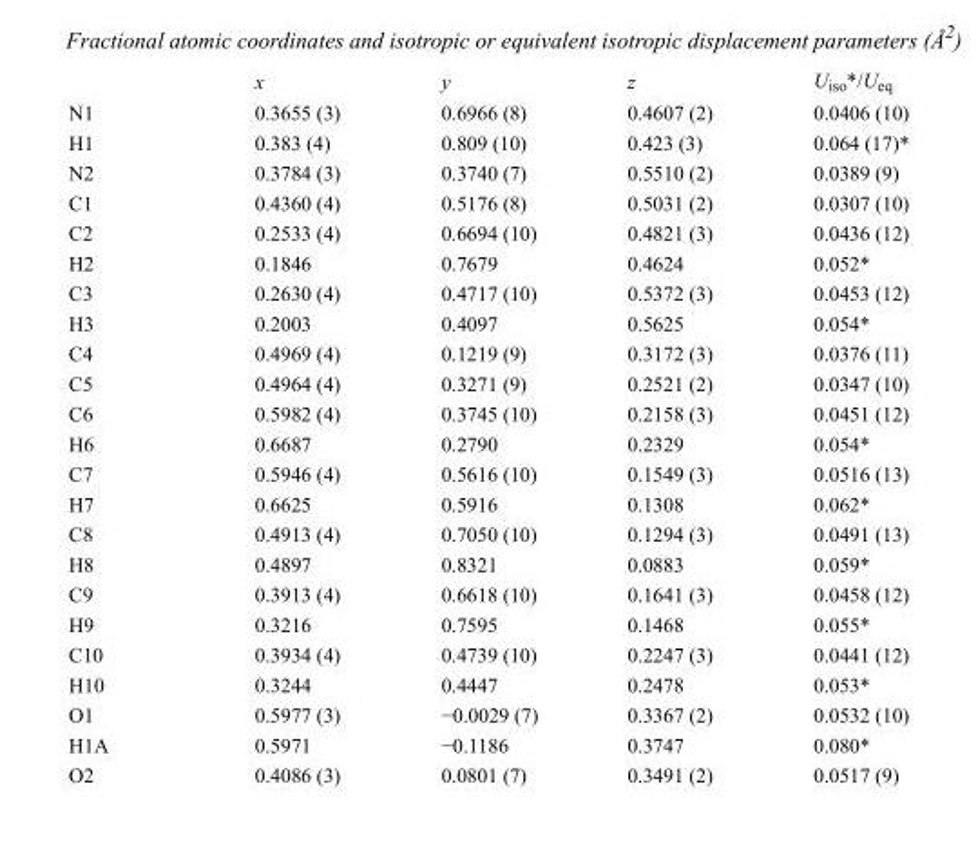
<table><thead><tr><td></td><td>x</td><td>y</td><td>z</td><td>U<sub>iso</sub>*/U<sub>eq</sub></td></tr></thead><tbody><tr><td>N1</td><td>0.3655 (3)</td><td>0.6966 (8)</td><td>0.4607 (2)</td><td>0.0406 (10)</td></tr><tr><td>H1</td><td>0.383 (4)</td><td>0.809 (10)</td><td>0.423 (3)</td><td>0.064 (17)*</td></tr><tr><td>N2</td><td>0.3784 (3)</td><td>0.3740 (7)</td><td>0.5510 (2)</td><td>0.0389 (9)</td></tr><tr><td>C1</td><td>0.4360 (4)</td><td>0.5176 (8)</td><td>0.5031 (2)</td><td>0.0307 (10)</td></tr><tr><td>C2</td><td>0.2533 (4)</td><td>0.6694 (10)</td><td>0.4821 (3)</td><td>0.0436 (12)</td></tr><tr><td>H2</td><td>0.1846</td><td>0.7679</td><td>0.4624</td><td>0.052*</td></tr><tr><td>C3</td><td>0.2630 (4)</td><td>0.4717 (10)</td><td>0.5372 (3)</td><td>0.0453 (12)</td></tr><tr><td>H3</td><td>0.2003</td><td>0.4097</td><td>0.5625</td><td>0.054*</td></tr><tr><td>C4</td><td>0.4969 (4)</td><td>0.1219 (9)</td><td>0.3172 (3)</td><td>0.0376 (11)</td></tr><tr><td>C5</td><td>0.4964 (4)</td><td>0.3271 (9)</td><td>0.2521 (2)</td><td>0.0347 (10)</td></tr><tr><td>C6</td><td>0.5982 (4)</td><td>0.3745 (10)</td><td>0.2158 (3)</td><td>0.0451 (12)</td></tr><tr><td>H6</td><td>0.6687</td><td>0.2790</td><td>0.2329</td><td>0.054*</td></tr><tr><td>C7</td><td>0.5946 (4)</td><td>0.5616 (10)</td><td>0.1549 (3)</td><td>0.0516 (13)</td></tr><tr><td>H7</td><td>0.6625</td><td>0.5916</td><td>0.1308</td><td>0.062*</td></tr><tr><td>C8</td><td>0.4913 (4)</td><td>0.7050 (10)</td><td>0.1294 (3)</td><td>0.0491 (13)</td></tr><tr><td>H8</td><td>0.4897</td><td>0.8321</td><td>0.0883</td><td>0.059*</td></tr><tr><td>C9</td><td>0.3913 (4)</td><td>0.6618 (10)</td><td>0.1641 (3)</td><td>0.0458 (12)</td></tr><tr><td>H9</td><td>0.3216</td><td>0.7595</td><td>0.1468</td><td>0.055*</td></tr><tr><td>C10</td><td>0.3934 (4)</td><td>0.4739 (10)</td><td>0.2247 (3)</td><td>0.0441 (12)</td></tr><tr><td>H10</td><td>0.3244</td><td>0.4447</td><td>0.2478</td><td>0.053*</td></tr><tr><td>O1</td><td>0.5977 (3)</td><td>−0.0029 (7)</td><td>0.3367 (2)</td><td>0.0532 (10)</td></tr><tr><td>H1A</td><td>0.5971</td><td>−0.1186</td><td>0.3747</td><td>0.080*</td></tr><tr><td>O2</td><td>0.4086 (3)</td><td>0.0801 (7)</td><td>0.3491 (2)</td><td>0.0517 (9)</td></tr></tbody></table>